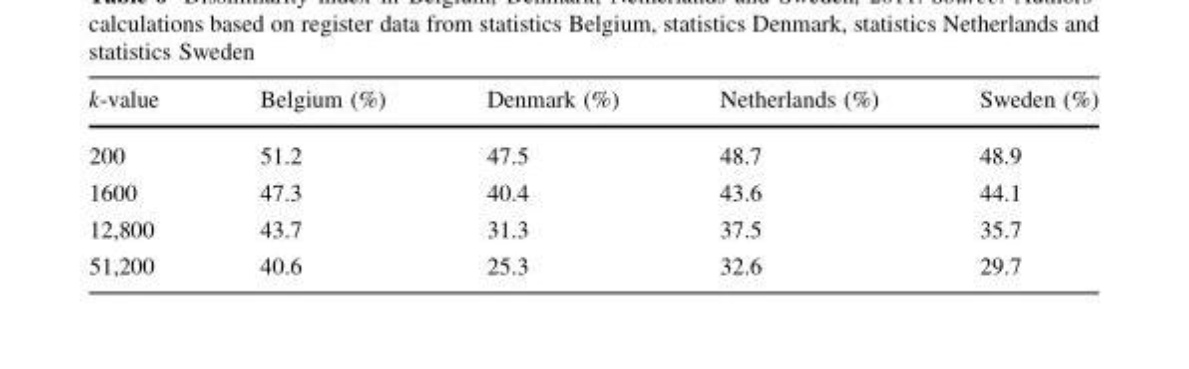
<table><thead><tr><td>k-value</td><td>Belgium (%)</td><td>Denmark (%)</td><td>Netherlands (%)</td><td>Sweden (%)</td></tr></thead><tbody><tr><td>200</td><td>51.2</td><td>47.5</td><td>48.7</td><td>48.9</td></tr><tr><td>1600</td><td>47.3</td><td>40.4</td><td>43.6</td><td>44.1</td></tr><tr><td>12,800</td><td>43.7</td><td>31.3</td><td>37.5</td><td>35.7</td></tr><tr><td>51,200</td><td>40.6</td><td>25.3</td><td>32.6</td><td>29.7</td></tr></tbody></table>